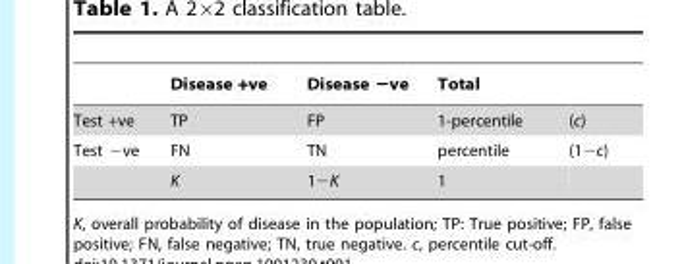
<table><thead><tr><td></td><td>Disease +ve</td><td>Disease −ve</td><td>Total</td><td></td></tr></thead><tbody><tr><td>Test +ve</td><td>TP</td><td>FP</td><td>1-percentile</td><td>(c)</td></tr><tr><td rowspan="2">Test −ve</td><td>FN</td><td>TN</td><td>percentile</td><td>(1−c)</td></tr><tr><td>K</td><td>1−K</td><td>1</td><td></td></tr></tbody></table>